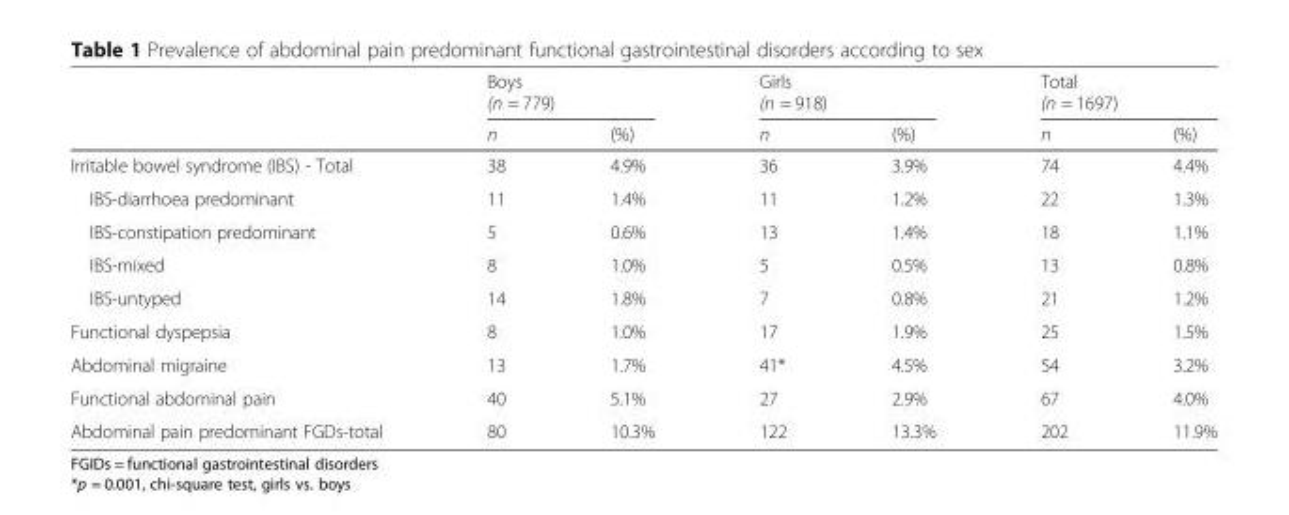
<table><thead><tr><td rowspan="2"></td><td colspan="2">Boys (n = 779)</td><td colspan="2">Girls (n = 918)</td><td colspan="2">Total (n = 1697)</td></tr><tr><td>n</td><td>(%)</td><td>n</td><td>(%)</td><td>n</td><td>(%)</td></tr></thead><tbody><tr><td>Irritable bowel syndrome (IBS) - Total</td><td>38</td><td>4.9%</td><td>36</td><td>3.9%</td><td>74</td><td>4.4%</td></tr><tr><td>IBS-diarrhoea predominant</td><td>11</td><td>1.4%</td><td>11</td><td>1.2%</td><td>22</td><td>1.3%</td></tr><tr><td>IBS-constipation predominant</td><td>5</td><td>0.6%</td><td>13</td><td>1.4%</td><td>18</td><td>1.1%</td></tr><tr><td>IBS-mixed</td><td>8</td><td>1.0%</td><td>5</td><td>0.5%</td><td>13</td><td>0.8%</td></tr><tr><td>IBS-untyped</td><td>14</td><td>1.8%</td><td>7</td><td>0.8%</td><td>21</td><td>1.2%</td></tr><tr><td>Functional dyspepsia</td><td>8</td><td>1.0%</td><td>17</td><td>1.9%</td><td>25</td><td>1.5%</td></tr><tr><td>Abdominal migraine</td><td>13</td><td>1.7%</td><td>41*</td><td>4.5%</td><td>54</td><td>3.2%</td></tr><tr><td>Functional abdominal pain</td><td>40</td><td>5.1%</td><td>27</td><td>2.9%</td><td>67</td><td>4.0%</td></tr><tr><td>Abdominal pain predominant FGDs-total</td><td>80</td><td>10.3%</td><td>122</td><td>13.3%</td><td>202</td><td>11.9%</td></tr></tbody></table>